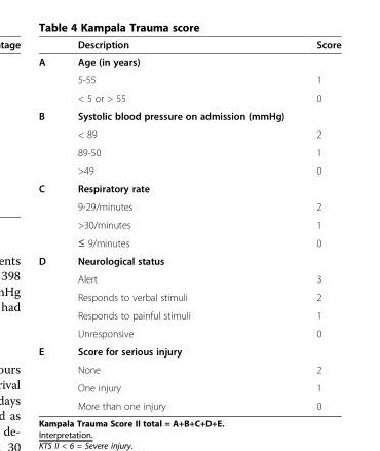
<table><thead><tr><td></td><td>Description</td><td>Score</td></tr></thead><tbody><tr><td rowspan="3">A</td><td>Age (in years)</td><td></td></tr><tr><td>5-55</td><td>1</td></tr><tr><td>&lt; 5 or &gt; 55</td><td>0</td></tr><tr><td rowspan="4">B</td><td>Systolic blood pressure on admission (mmHg)</td><td></td></tr><tr><td>&lt; 89</td><td>2</td></tr><tr><td>89-50</td><td>1</td></tr><tr><td>&gt;49</td><td>0</td></tr><tr><td rowspan="4">C</td><td>Respiratory rate</td><td></td></tr><tr><td>9-29/minutes</td><td>2</td></tr><tr><td>&gt;30/minutes</td><td>1</td></tr><tr><td>≤ 9/minutes</td><td>0</td></tr><tr><td rowspan="5">D</td><td>Neurological status</td><td></td></tr><tr><td>Alert</td><td>3</td></tr><tr><td>Responds to verbal stimuli</td><td>2</td></tr><tr><td>Responds to painful stimuli</td><td>1</td></tr><tr><td>Unresponsive</td><td>0</td></tr><tr><td rowspan="4">E</td><td>Score for serious injury</td><td></td></tr><tr><td>None</td><td>2</td></tr><tr><td>One injury</td><td>1</td></tr><tr><td>More than one injury</td><td>0</td></tr></tbody></table>